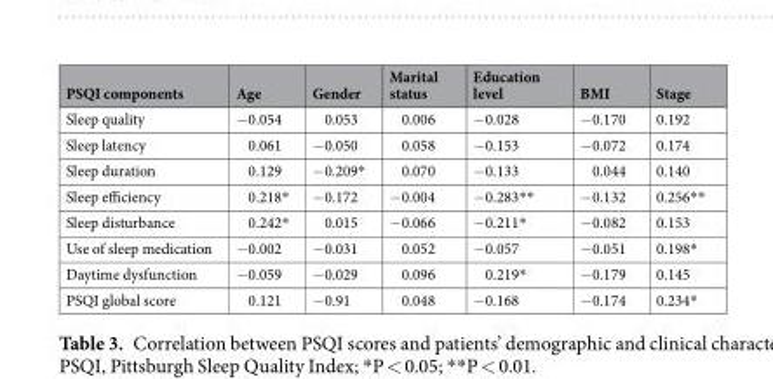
<table><thead><tr><td>PSQI components</td><td>Age</td><td>Gender</td><td>Marital status</td><td>Education level</td><td>BMI</td><td>Stage</td></tr></thead><tbody><tr><td>Sleep quality</td><td>−0.054</td><td>0.053</td><td>0.006</td><td>−0.028</td><td>−0.170</td><td>0.192</td></tr><tr><td>Sleep latency</td><td>0.061</td><td>−0.050</td><td>0.058</td><td>−0.153</td><td>−0.072</td><td>0.174</td></tr><tr><td>Sleep duration</td><td>0.129</td><td>−0.209*</td><td>0.070</td><td>−0.133</td><td>0.044</td><td>0.140</td></tr><tr><td>Sleep efficiency</td><td>0.218*</td><td>−0.172</td><td>−0.004</td><td>−0.283**</td><td>−0.132</td><td>0.256**</td></tr><tr><td>Sleep disturbance</td><td>0.242*</td><td>0.015</td><td>−0.066</td><td>−0.211*</td><td>−0.082</td><td>0.153</td></tr><tr><td>Use of sleep medication</td><td>−0.002</td><td>−0.031</td><td>0.052</td><td>−0.057</td><td>−0.051</td><td>0.198*</td></tr><tr><td>Daytime dysfunction</td><td>−0.059</td><td>−0.029</td><td>0.096</td><td>0.219*</td><td>−0.179</td><td>0.145</td></tr><tr><td>PSQI global score</td><td>0.121</td><td>−0.91</td><td>0.048</td><td>−0.168</td><td>−0.174</td><td>0.234*</td></tr></tbody></table>